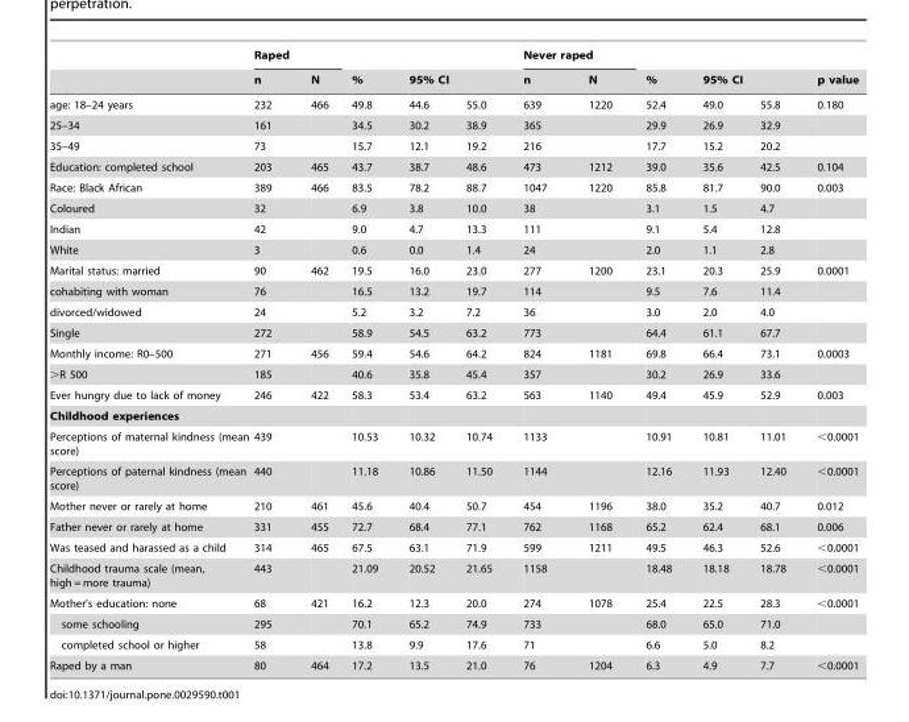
<table><thead><tr><td rowspan="2"></td><td colspan="2">Raped</td><td rowspan="2">%</td><td></td><td></td><td colspan="2">Never raped</td><td rowspan="2">%</td><td></td><td></td><td rowspan="2">p value</td></tr><tr><td>n</td><td>N</td><td colspan="2">95% CI</td><td>n</td><td>N</td><td colspan="2">95% CI</td></tr></thead><tbody><tr><td>age: 18–24 years</td><td>232</td><td>466</td><td>49.8</td><td>44.6</td><td>55.0</td><td>639</td><td>1220</td><td>52.4</td><td>49.0</td><td>55.8</td><td>0.180</td></tr><tr><td>25–34</td><td>161</td><td></td><td>34.5</td><td>30.2</td><td>38.9</td><td>365</td><td></td><td>29.9</td><td>26.9</td><td>32.9</td><td></td></tr><tr><td>35–49</td><td>73</td><td></td><td>15.7</td><td>12.1</td><td>19.2</td><td>216</td><td></td><td>17.7</td><td>15.2</td><td>20.2</td><td></td></tr><tr><td>Education: completed school</td><td>203</td><td>465</td><td>43.7</td><td>38.7</td><td>48.6</td><td>473</td><td>1212</td><td>39.0</td><td>35.6</td><td>42.5</td><td>0.104</td></tr><tr><td>Race: Black African</td><td>389</td><td>466</td><td>83.5</td><td>78.2</td><td>88.7</td><td>1047</td><td>1220</td><td>85.8</td><td>81.7</td><td>90.0</td><td>0.003</td></tr><tr><td>Coloured</td><td>32</td><td></td><td>6.9</td><td>3.8</td><td>10.0</td><td>38</td><td></td><td>3.1</td><td>1.5</td><td>4.7</td><td></td></tr><tr><td>Indian</td><td>42</td><td></td><td>9.0</td><td>4.7</td><td>13.3</td><td>111</td><td></td><td>9.1</td><td>5.4</td><td>12.8</td><td></td></tr><tr><td>White</td><td>3</td><td></td><td>0.6</td><td>0.0</td><td>1.4</td><td>24</td><td></td><td>2.0</td><td>1.1</td><td>2.8</td><td></td></tr><tr><td>Marital status: married</td><td>90</td><td>462</td><td>19.5</td><td>16.0</td><td>23.0</td><td>277</td><td>1200</td><td>23.1</td><td>20.3</td><td>25.9</td><td>0.0001</td></tr><tr><td>cohabiting with woman</td><td>76</td><td></td><td>16.5</td><td>13.2</td><td>19.7</td><td>114</td><td></td><td>9.5</td><td>7.6</td><td>11.4</td><td></td></tr><tr><td>divorced/widowed</td><td>24</td><td></td><td>5.2</td><td>3.2</td><td>7.2</td><td>36</td><td></td><td>3.0</td><td>2.0</td><td>4.0</td><td></td></tr><tr><td>Single</td><td>272</td><td></td><td>58.9</td><td>54.5</td><td>63.2</td><td>773</td><td></td><td>64.4</td><td>61.1</td><td>67.7</td><td></td></tr><tr><td>Monthly income: R0–500</td><td>271</td><td>456</td><td>59.4</td><td>54.6</td><td>64.2</td><td>824</td><td>1181</td><td>69.8</td><td>66.4</td><td>73.1</td><td>0.0003</td></tr><tr><td>&gt;R 500</td><td>185</td><td></td><td>40.6</td><td>35.8</td><td>45.4</td><td>357</td><td></td><td>30.2</td><td>26.9</td><td>33.6</td><td></td></tr><tr><td>Ever hungry due to lack of money</td><td>246</td><td>422</td><td>58.3</td><td>53.4</td><td>63.2</td><td>563</td><td>1140</td><td>49.4</td><td>45.9</td><td>52.9</td><td>0.003</td></tr><tr><td colspan="12">Childhood experiences</td></tr><tr><td>Perceptions of maternal kindness (mean score)</td><td>439</td><td></td><td>10.53</td><td>10.32</td><td>10.74</td><td>1133</td><td></td><td>10.91</td><td>10.81</td><td>11.01</td><td>&lt;0.0001</td></tr><tr><td>Perceptions of paternal kindness (mean score)</td><td>440</td><td></td><td>11.18</td><td>10.86</td><td>11.50</td><td>1144</td><td></td><td>12.16</td><td>11.93</td><td>12.40</td><td>&lt;0.0001</td></tr><tr><td>Mother never or rarely at home</td><td>210</td><td>461</td><td>45.6</td><td>40.4</td><td>50.7</td><td>454</td><td>1196</td><td>38.0</td><td>35.2</td><td>40.7</td><td>0.012</td></tr><tr><td>Father never or rarely at home</td><td>331</td><td>455</td><td>72.7</td><td>68.4</td><td>77.1</td><td>762</td><td>1168</td><td>65.2</td><td>62.4</td><td>68.1</td><td>0.006</td></tr><tr><td>Was teased and harassed as a child</td><td>314</td><td>465</td><td>67.5</td><td>63.1</td><td>71.9</td><td>599</td><td>1211</td><td>49.5</td><td>46.3</td><td>52.6</td><td>&lt;0.0001</td></tr><tr><td>Childhood trauma scale (mean, high = more trauma)</td><td>443</td><td></td><td>21.09</td><td>20.52</td><td>21.65</td><td>1158</td><td></td><td>18.48</td><td>18.18</td><td>18.78</td><td>&lt;0.0001</td></tr><tr><td>Mother’s education: none</td><td>68</td><td>421</td><td>16.2</td><td>12.3</td><td>20.0</td><td>274</td><td>1078</td><td>25.4</td><td>22.5</td><td>28.3</td><td>&lt;0.0001</td></tr><tr><td>some schooling</td><td>295</td><td></td><td>70.1</td><td>65.2</td><td>74.9</td><td>733</td><td></td><td>68.0</td><td>65.0</td><td>71.0</td><td></td></tr><tr><td>completed school or higher</td><td>58</td><td></td><td>13.8</td><td>9.9</td><td>17.6</td><td>71</td><td></td><td>6.6</td><td>5.0</td><td>8.2</td><td></td></tr><tr><td>Raped by a man</td><td>80</td><td>464</td><td>17.2</td><td>13.5</td><td>21.0</td><td>76</td><td>1204</td><td>6.3</td><td>4.9</td><td>7.7</td><td>&lt;0.0001</td></tr></tbody></table>